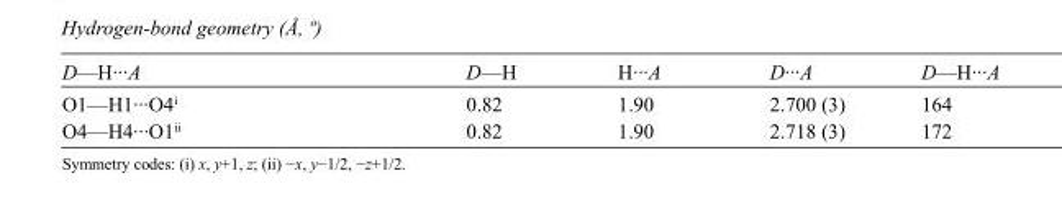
<table><tbody><tr><td>D—H···A</td><td>D—H</td><td>H···A</td><td>D···A</td><td>D—H···A</td></tr><tr><td>O1—H1···O4<sup>i</sup></td><td>0.82</td><td>1.90</td><td>2.700 (3)</td><td>164</td></tr><tr><td>O4—H4···O1<sup>ii</sup></td><td>0.82</td><td>1.90</td><td>2.718 (3)</td><td>172</td></tr></tbody></table>